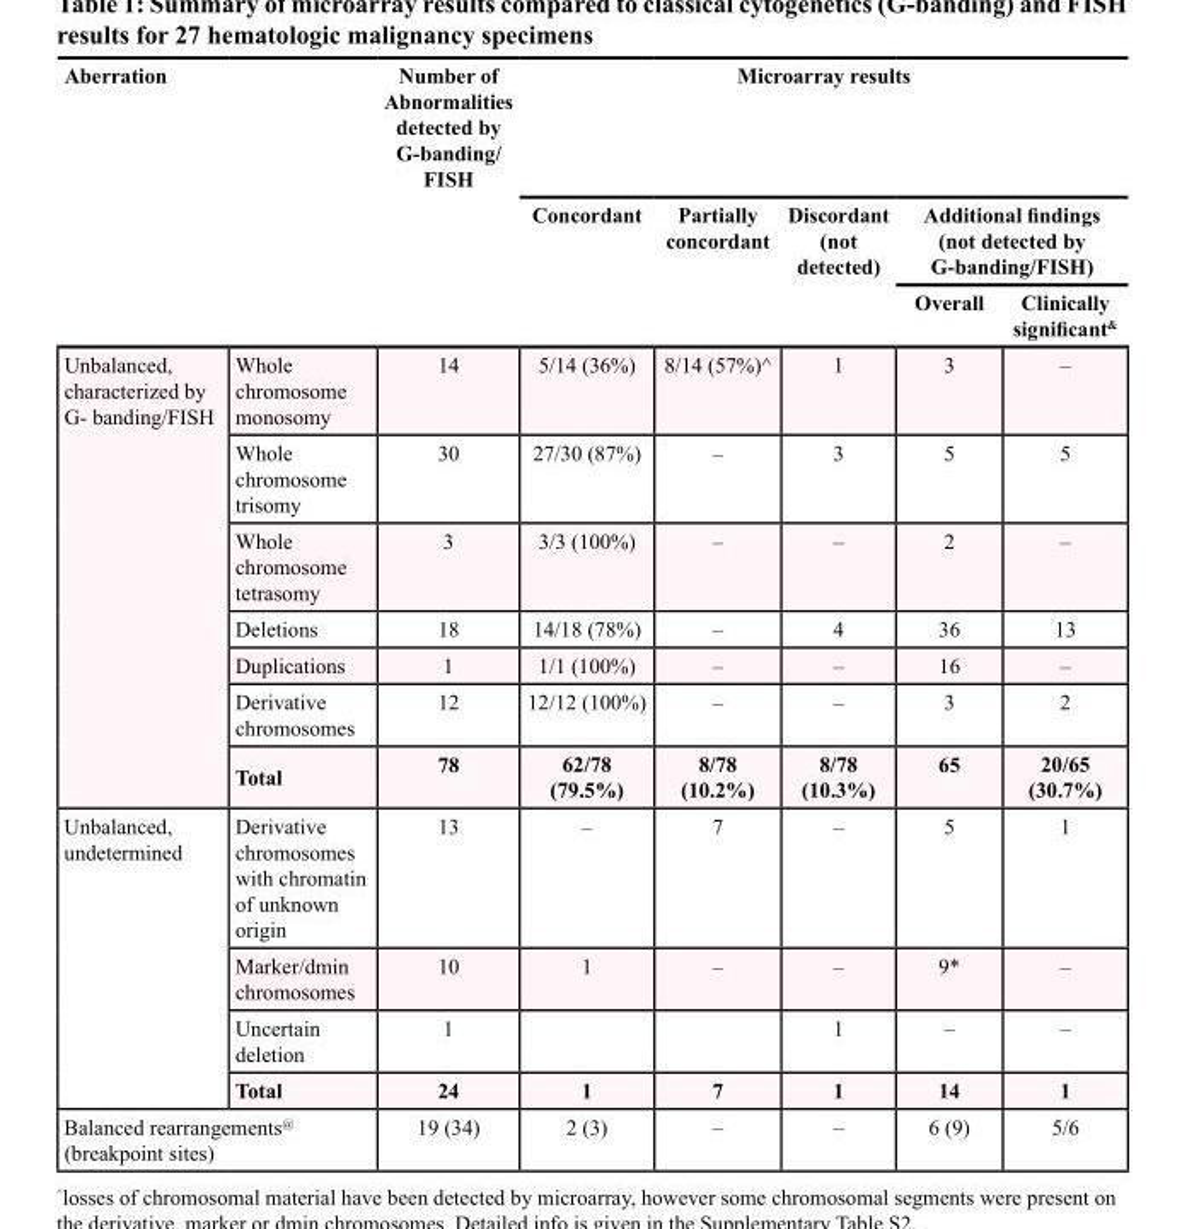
<table><thead><tr><td rowspan="3">Aberration</td><td rowspan="3"></td><td rowspan="3">Number of Abnormalities detected by G-banding/ FISH</td><td colspan="5">Microarray results</td></tr><tr><td rowspan="2">Concordant</td><td rowspan="2">Partially concordant</td><td rowspan="2">Discordant (not detected)</td><td colspan="2">Additional findings (not detected by G-banding/FISH)</td></tr><tr><td>Overall</td><td>Clini cally signifi cant<sup>&amp;</sup></td></tr></thead><tbody><tr><td rowspan="7">Unbalanced, characterized by G- banding/FISH</td><td>Whole chromosome monosomy</td><td>14</td><td>5/14 (36%)</td><td>8/14 (57%)<sup>^</sup></td><td>1</td><td>3</td><td>–</td></tr><tr><td>Whole chromosome trisomy</td><td>30</td><td>27/30 (87%)</td><td>–</td><td>3</td><td>5</td><td>5</td></tr><tr><td>Whole chromosome tetrasomy</td><td>3</td><td>3/3 (100%)</td><td>–</td><td>–</td><td>2</td><td>–</td></tr><tr><td>Deletions</td><td>18</td><td>14/18 (78%)</td><td>–</td><td>4</td><td>36</td><td>13</td></tr><tr><td>Duplications</td><td>1</td><td>1/1 (100%)</td><td>–</td><td>–</td><td>16</td><td>–</td></tr><tr><td>Derivative chromosomes</td><td>12</td><td>12/12 (100%)</td><td>–</td><td>–</td><td>3</td><td>2</td></tr><tr><td>Total</td><td>78</td><td>62/78 (79.5%)</td><td>8/78 (10.2%)</td><td>8/78 (10.3%)</td><td>65</td><td>20/65 (30.7%)</td></tr><tr><td rowspan="4">Unbalanced, undetermined</td><td>Derivative chromosomes with chromatin of unknown origin</td><td>13</td><td>–</td><td>7</td><td>–</td><td>5</td><td>1</td></tr><tr><td>Marker/dmin chromosomes</td><td>10</td><td>1</td><td>–</td><td>–</td><td>9*</td><td>–</td></tr><tr><td>Uncertain deletion</td><td>1</td><td></td><td></td><td>1</td><td>–</td><td>–</td></tr><tr><td>Total</td><td>24</td><td>1</td><td>7</td><td>1</td><td>14</td><td>1</td></tr><tr><td colspan="2">Balanced rearrangements<sup>@</sup> (breakpoint sites)</td><td>19 (34)</td><td>2 (3)</td><td>–</td><td>–</td><td>6 (9)</td><td>5/6</td></tr></tbody></table>